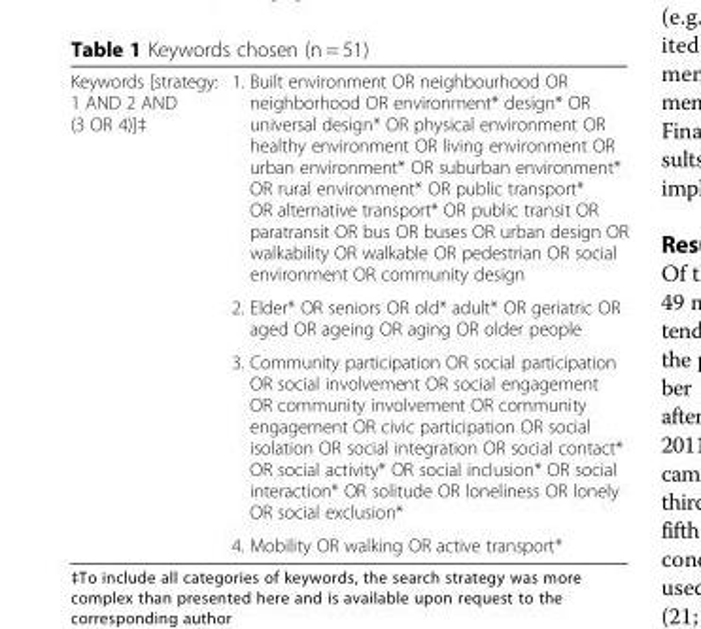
<table><tbody><tr><td rowspan="4">Keywords [strategy: 1 AND 2 AND (3 OR 4)]‡</td><td>1. Built environment OR neighbourhood OR neighborhood OR environment* design* OR universal design* OR physical environment OR healthy environment OR living environment OR urban environment* OR suburban environment* OR rural environment* OR public transport* OR alternative transport* OR public transit OR paratransit OR bus OR buses OR urban design OR walkability OR walkable OR pedestrian OR social environment OR community design</td></tr><tr><td>2. Elder* OR seniors OR old* adult* OR geriatric OR aged OR ageing OR aging OR older people</td></tr><tr><td>3. Community participation OR social participation OR social involvement OR social engagement OR community involvement OR community engagement OR civic participation OR social isolation OR social integration OR social contact* OR social activity* OR social inclusion* OR social interaction* OR solitude OR loneliness OR lonely OR social exclusion*</td></tr><tr><td>4. Mobility OR walking OR active transport*</td></tr></tbody></table>